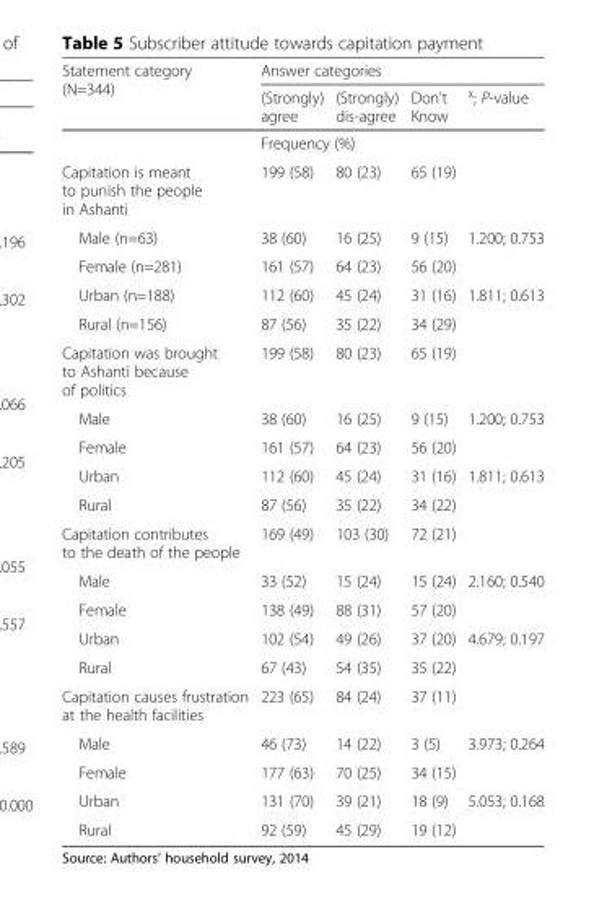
<table><thead><tr><td rowspan="2">Statement category (N=344)</td><td colspan="4">Answer categories</td></tr><tr><td>(Strongly) agree</td><td>(Strongly) dis-agree</td><td>Don&#x27;t Know</td><td><sup>χ</sup>; P-value</td></tr></thead><tbody><tr><td></td><td colspan="3">Frequency (%)</td><td></td></tr><tr><td>Capitation is meant to punish the people in Ashanti</td><td>199 (58)</td><td>80 (23)</td><td>65 (19)</td><td></td></tr><tr><td>Male (n=63)</td><td>38 (60)</td><td>16 (25)</td><td>9 (15)</td><td rowspan="2">1.200; 0.753</td></tr><tr><td>Female (n=281)</td><td>161 (57)</td><td>64 (23)</td><td>56 (20)</td></tr><tr><td>Urban (n=188)</td><td>112 (60)</td><td>45 (24)</td><td>31 (16)</td><td rowspan="2">1.811; 0.613</td></tr><tr><td>Rural (n=156)</td><td>87 (56)</td><td>35 (22)</td><td>34 (29)</td></tr><tr><td>Capitation was brought to Ashanti because of politics</td><td>199 (58)</td><td>80 (23)</td><td>65 (19)</td><td></td></tr><tr><td>Male</td><td>38 (60)</td><td>16 (25)</td><td>9 (15)</td><td rowspan="2">1.200; 0.753</td></tr><tr><td>Female</td><td>161 (57)</td><td>64 (23)</td><td>56 (20)</td></tr><tr><td>Urban</td><td>112 (60)</td><td>45 (24)</td><td>31 (16)</td><td rowspan="2">1.811; 0.613</td></tr><tr><td>Rural</td><td>87 (56)</td><td>35 (22)</td><td>34 (22)</td></tr><tr><td>Capitation contributes to the death of the people</td><td>169 (49)</td><td>103 (30)</td><td>72 (21)</td><td></td></tr><tr><td>Male</td><td>33 (52)</td><td>15 (24)</td><td>15 (24)</td><td rowspan="2">2.160; 0.540</td></tr><tr><td>Female</td><td>138 (49)</td><td>88 (31)</td><td>57 (20)</td></tr><tr><td>Urban</td><td>102 (54)</td><td>49 (26)</td><td>37 (20)</td><td rowspan="2">4.679; 0.197</td></tr><tr><td>Rural</td><td>67 (43)</td><td>54 (35)</td><td>35 (22)</td></tr><tr><td>Capitation causes frustration at the health facilities</td><td>223 (65)</td><td>84 (24)</td><td>37 (11)</td><td></td></tr><tr><td>Male</td><td>46 (73)</td><td>14 (22)</td><td>3 (5)</td><td rowspan="2">3.973; 0.264</td></tr><tr><td>Female</td><td>177 (63)</td><td>70 (25)</td><td>34 (15)</td></tr><tr><td>Urban</td><td>131 (70)</td><td>39 (21)</td><td>18 (9)</td><td rowspan="2">5.053; 0.168</td></tr><tr><td>Rural</td><td>92 (59)</td><td>45 (29)</td><td>19 (12)</td></tr></tbody></table>